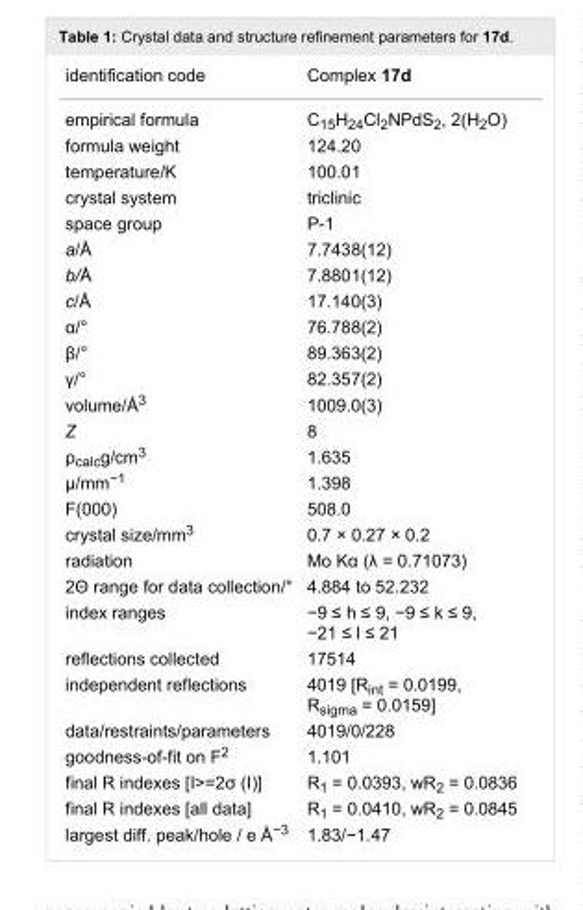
<table><tbody><tr><td>identification code</td><td>Complex 17d</td></tr><tr><td>empirical formula</td><td>C<sub>15</sub>H<sub>24</sub>Cl<sub>2</sub>NPdS<sub>2</sub>, 2(H<sub>2</sub>O)</td></tr><tr><td>formula weight</td><td>124.20</td></tr><tr><td>temperature/K</td><td>100.01</td></tr><tr><td>crystal system</td><td>triclinic</td></tr><tr><td>space group</td><td>P-1</td></tr><tr><td>a/Å</td><td>7.7438(12)</td></tr><tr><td>b/Å</td><td>7.8801(12)</td></tr><tr><td>c/Å</td><td>17.140(3)</td></tr><tr><td>α/°</td><td>76.788(2)</td></tr><tr><td>β/°</td><td>89.363(2)</td></tr><tr><td>γ/°</td><td>82.357(2)</td></tr><tr><td>volume/Å<sup>3</sup></td><td>1009.0(3)</td></tr><tr><td>Z</td><td>8</td></tr><tr><td>ρ<sub>calc</sub>g/cm<sup>3</sup></td><td>1.635</td></tr><tr><td>μ/mm<sup>−1</sup></td><td>1.398</td></tr><tr><td>F(000)</td><td>508.0</td></tr><tr><td>crystal size/mm<sup>3</sup></td><td>0.7 × 0.27 × 0.2</td></tr><tr><td>radiation</td><td>Mo Kα (λ = 0.71073)</td></tr><tr><td>2Θ range for data collection/°</td><td>4.884 to 52.232</td></tr><tr><td>index ranges</td><td>−9 ≤ h ≤ 9, −9 ≤ k ≤ 9, −21 ≤ l ≤ 21</td></tr><tr><td>reflections collected</td><td>17514</td></tr><tr><td>independent reflections</td><td>4019 [R<sub>int</sub> = 0.0199, R<sub>sigma</sub> = 0.0159]</td></tr><tr><td>data/restraints/parameters</td><td>4019/0/228</td></tr><tr><td>goodness-of-fit on F<sup>2</sup></td><td>1.101</td></tr><tr><td>final R indexes [I&gt;=2σ (I)]</td><td>R<sub>1</sub> = 0.0393, wR<sub>2</sub> = 0.0836</td></tr><tr><td>final R indexes [all data]</td><td>R<sub>1</sub> = 0.0410, wR<sub>2</sub> = 0.0845</td></tr><tr><td>largest diff. peak/hole / e Å<sup>−3</sup></td><td>1.83/−1.47</td></tr></tbody></table>